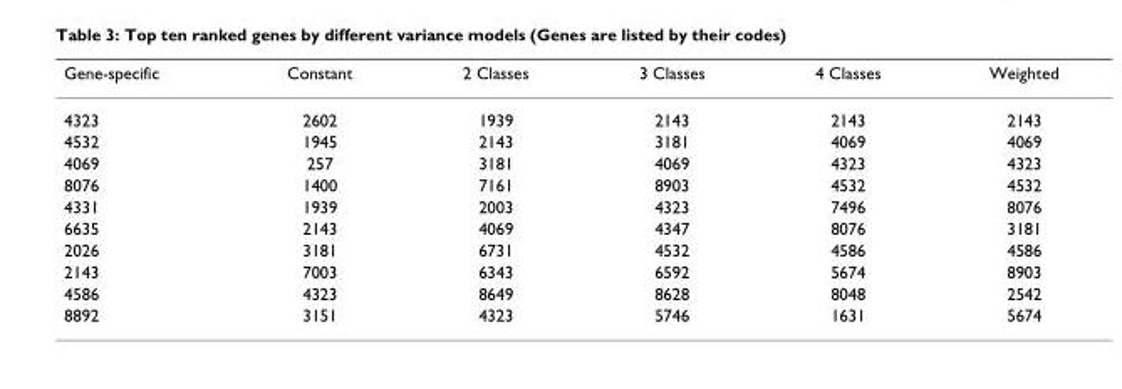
<table><thead><tr><td>Gene-specific</td><td>Constant</td><td>2 Classes</td><td>3 Classes</td><td>4 Classes</td><td>Weighted</td></tr></thead><tbody><tr><td>4323</td><td>2602</td><td>1939</td><td>2143</td><td>2143</td><td>2143</td></tr><tr><td>4532</td><td>1945</td><td>2143</td><td>3181</td><td>4069</td><td>4069</td></tr><tr><td>4069</td><td>257</td><td>3181</td><td>4069</td><td>4323</td><td>4323</td></tr><tr><td>8076</td><td>1400</td><td>7161</td><td>8903</td><td>4532</td><td>4532</td></tr><tr><td>4331</td><td>1939</td><td>2003</td><td>4323</td><td>7496</td><td>8076</td></tr><tr><td>6635</td><td>2143</td><td>4069</td><td>4347</td><td>8076</td><td>3181</td></tr><tr><td>2026</td><td>3181</td><td>6731</td><td>4532</td><td>4586</td><td>4586</td></tr><tr><td>2143</td><td>7003</td><td>6343</td><td>6592</td><td>5674</td><td>8903</td></tr><tr><td>4586</td><td>4323</td><td>8649</td><td>8628</td><td>8048</td><td>2542</td></tr><tr><td>8892</td><td>3151</td><td>4323</td><td>5746</td><td>1631</td><td>5674</td></tr></tbody></table>